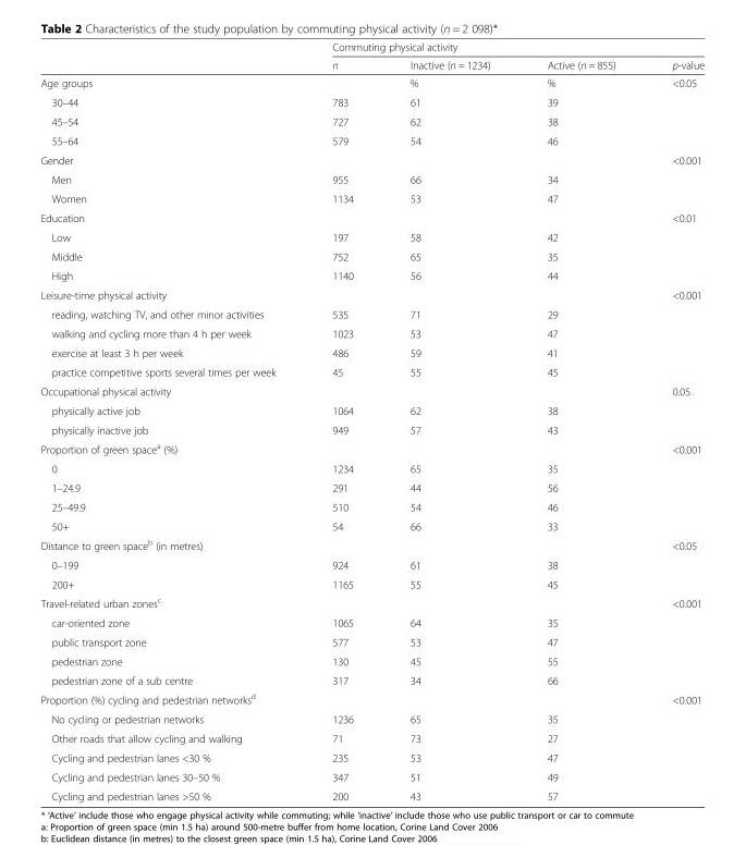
<table><thead><tr><td rowspan="2"></td><td colspan="4">Commuting physical activity</td></tr><tr><td>n</td><td>Inactive (n = 1234)</td><td>Active (n = 855)</td><td>p-value</td></tr></thead><tbody><tr><td>Age groups</td><td></td><td>%</td><td>%</td><td>&lt;0.05</td></tr><tr><td>30–44</td><td>783</td><td>61</td><td>39</td><td></td></tr><tr><td>45–54</td><td>727</td><td>62</td><td>38</td><td></td></tr><tr><td>55–64</td><td>579</td><td>54</td><td>46</td><td></td></tr><tr><td>Gender</td><td></td><td></td><td></td><td>&lt;0.001</td></tr><tr><td>Men</td><td>955</td><td>66</td><td>34</td><td></td></tr><tr><td>Women</td><td>1134</td><td>53</td><td>47</td><td></td></tr><tr><td>Education</td><td></td><td></td><td></td><td>&lt;0.01</td></tr><tr><td>Low</td><td>197</td><td>58</td><td>42</td><td></td></tr><tr><td>Middle</td><td>752</td><td>65</td><td>35</td><td></td></tr><tr><td>High</td><td>1140</td><td>56</td><td>44</td><td></td></tr><tr><td>Leisure-time physical activity</td><td></td><td></td><td></td><td>&lt;0.001</td></tr><tr><td>reading, watching TV, and other minor activities</td><td>535</td><td>71</td><td>29</td><td></td></tr><tr><td>walking and cycling more than 4 h per week</td><td>1023</td><td>53</td><td>47</td><td></td></tr><tr><td>exercise at least 3 h per week</td><td>486</td><td>59</td><td>41</td><td></td></tr><tr><td>practice competitive sports several times per week</td><td>45</td><td>55</td><td>45</td><td></td></tr><tr><td>Occupational physical activity</td><td></td><td></td><td></td><td>0.05</td></tr><tr><td>physically active job</td><td>1064</td><td>62</td><td>38</td><td></td></tr><tr><td>physically inactive job</td><td>949</td><td>57</td><td>43</td><td></td></tr><tr><td>Proportion of green space<sup>a</sup> (%)</td><td></td><td></td><td></td><td>&lt;0.001</td></tr><tr><td>0</td><td>1234</td><td>65</td><td>35</td><td></td></tr><tr><td>1–24.9</td><td>291</td><td>44</td><td>56</td><td></td></tr><tr><td>25–49.9</td><td>510</td><td>54</td><td>46</td><td></td></tr><tr><td>50+</td><td>54</td><td>66</td><td>33</td><td></td></tr><tr><td>Distance to green space<sup>b</sup> (in metres)</td><td></td><td></td><td></td><td>&lt;0.05</td></tr><tr><td>0–199</td><td>924</td><td>61</td><td>38</td><td></td></tr><tr><td>200+</td><td>1165</td><td>55</td><td>45</td><td></td></tr><tr><td>Travel-related urban zones<sup>c</sup></td><td></td><td></td><td></td><td>&lt;0.001</td></tr><tr><td>car-oriented zone</td><td>1065</td><td>64</td><td>35</td><td></td></tr><tr><td>public transport zone</td><td>577</td><td>53</td><td>47</td><td></td></tr><tr><td>pedestrian zone</td><td>130</td><td>45</td><td>55</td><td></td></tr><tr><td>pedestrian zone of a sub centre</td><td>317</td><td>34</td><td>66</td><td></td></tr><tr><td>Proportion (%) cycling and pedestrian networks<sup>d</sup></td><td></td><td></td><td></td><td>&lt;0.001</td></tr><tr><td>No cycling or pedestrian networks</td><td>1236</td><td>65</td><td>35</td><td></td></tr><tr><td>Other roads that allow cycling and walking</td><td>71</td><td>73</td><td>27</td><td></td></tr><tr><td>Cycling and pedestrian lanes &lt;30 %</td><td>235</td><td>53</td><td>47</td><td></td></tr><tr><td>Cycling and pedestrian lanes 30–50 %</td><td>347</td><td>51</td><td>49</td><td></td></tr><tr><td>Cycling and pedestrian lanes &gt;50 %</td><td>200</td><td>43</td><td>57</td><td></td></tr></tbody></table>